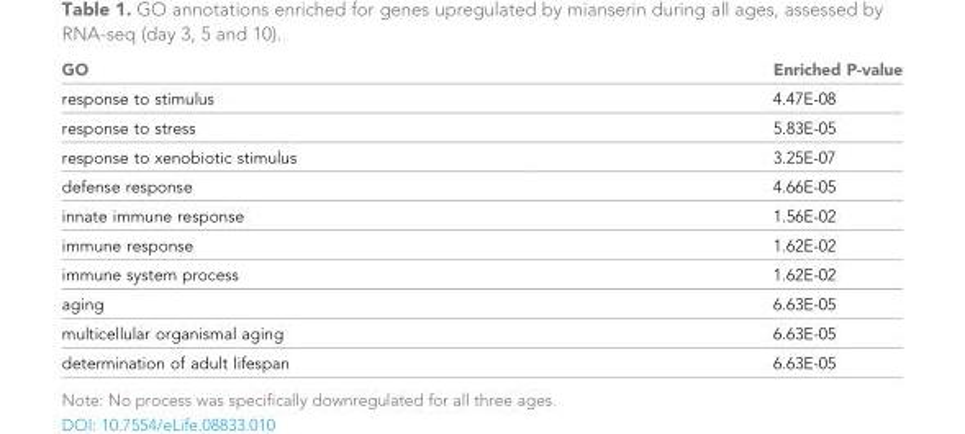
<table><thead><tr><td>GO</td><td>Enriched P-value</td></tr></thead><tbody><tr><td>response to stimulus</td><td>4.47E-08</td></tr><tr><td>response to stress</td><td>5.83E-05</td></tr><tr><td>response to xenobiotic stimulus</td><td>3.25E-07</td></tr><tr><td>defense response</td><td>4.66E-05</td></tr><tr><td>innate immune response</td><td>1.56E-02</td></tr><tr><td>immune response</td><td>1.62E-02</td></tr><tr><td>immune system process</td><td>1.62E-02</td></tr><tr><td>aging</td><td>6.63E-05</td></tr><tr><td>multicellular organismal aging</td><td>6.63E-05</td></tr><tr><td>determination of adult lifespan</td><td>6.63E-05</td></tr></tbody></table>